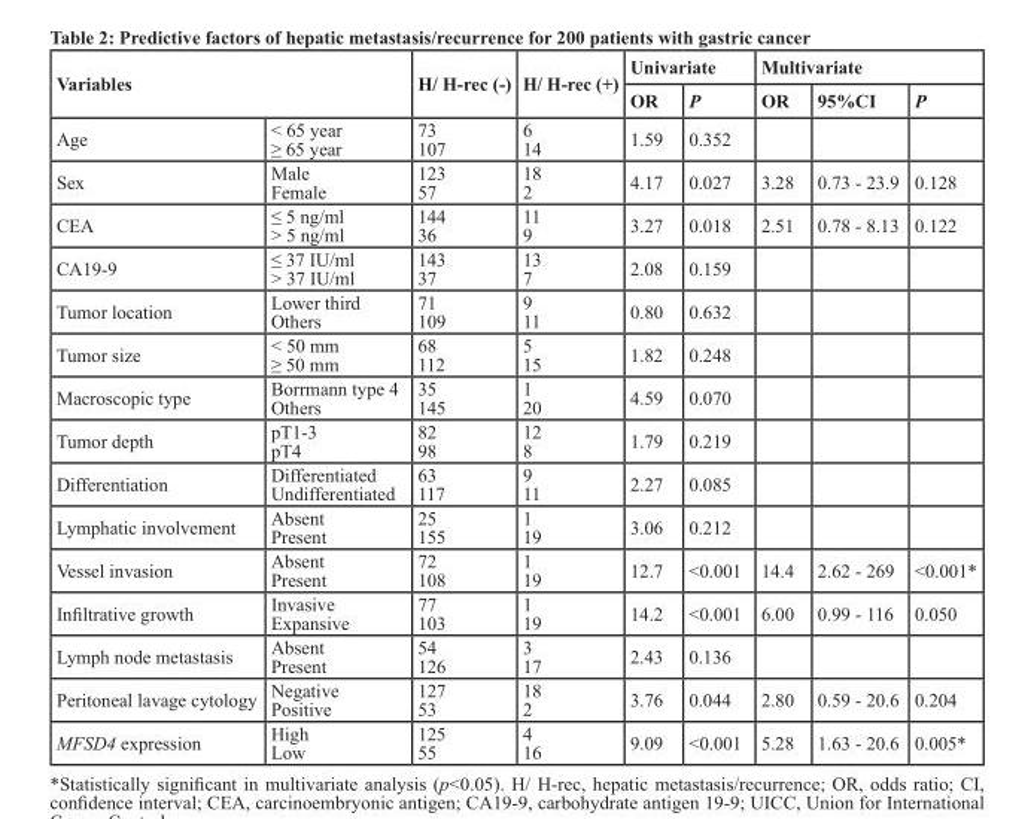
<table><thead><tr><td rowspan="2" colspan="2">Variables</td><td rowspan="3">H/ H-rec (-) 73 107</td><td rowspan="3">H/ H-rec (+) 6 14</td><td colspan="2">Univariate</td><td colspan="3">Multivariate</td></tr><tr><td rowspan="2">OR 1.59</td><td rowspan="2">P 0.352</td><td rowspan="2">OR</td><td rowspan="2">95%CI</td><td rowspan="2">P</td></tr><tr><td>Age</td><td>&lt; 65 year ≥ 65 year</td></tr></thead><tbody><tr><td>Sex</td><td>Male Female</td><td>123 57</td><td>18 2</td><td>4.17</td><td>0.027</td><td>3.28</td><td>0.73 - 23.9</td><td>0.128</td></tr><tr><td>CEA</td><td>≤ 5 ng/ml &gt; 5 ng/ml</td><td>144 36</td><td>11 9</td><td>3.27</td><td>0.018</td><td>2.51</td><td>0.78 - 8.13</td><td>0.122</td></tr><tr><td>CA19-9</td><td>≤ 37 IU/ml &gt; 37 IU/ml</td><td>143 37</td><td>13 7</td><td>2.08</td><td>0.159</td><td></td><td></td><td></td></tr><tr><td>Tumor location</td><td>Lower third Others</td><td>71 109</td><td>9 11</td><td>0.80</td><td>0.632</td><td></td><td></td><td></td></tr><tr><td>Tumor size</td><td>&lt; 50 mm ≥ 50 mm</td><td>68 112</td><td>5 15</td><td>1.82</td><td>0.248</td><td></td><td></td><td></td></tr><tr><td>Macroscopic type</td><td>Borrmann type 4 Others</td><td>35 145</td><td>1 20</td><td>4.59</td><td>0.070</td><td></td><td></td><td></td></tr><tr><td>Tumor depth</td><td>pT1-3 pT4</td><td>82 98</td><td>12 8</td><td>1.79</td><td>0.219</td><td></td><td></td><td></td></tr><tr><td>Differentiation</td><td>Differentiated Undifferentiated</td><td>63 117</td><td>9 11</td><td>2.27</td><td>0.085</td><td></td><td></td><td></td></tr><tr><td>Lymphatic involvement</td><td>Absent Present</td><td>25 155</td><td>1 19</td><td>3.06</td><td>0.212</td><td></td><td></td><td></td></tr><tr><td>Vessel invasion</td><td>Absent Present</td><td>72 108</td><td>1 19</td><td>12.7</td><td>&lt;0.001</td><td>14.4</td><td>2.62 - 269</td><td>&lt;0.001*</td></tr><tr><td>Infiltrative growth</td><td>Invasive Expansive</td><td>77 103</td><td>1 19</td><td>14.2</td><td>&lt;0.001</td><td>6.00</td><td>0.99 - 116</td><td>0.050</td></tr><tr><td>Lymph node metastasis</td><td>Absent Present</td><td>54 126</td><td>3 17</td><td>2.43</td><td>0.136</td><td></td><td></td><td></td></tr><tr><td>Peritoneal lavage cytology</td><td>Negative Positive</td><td>127 53</td><td>18 2</td><td>3.76</td><td>0.044</td><td>2.80</td><td>0.59 - 20.6</td><td>0.204</td></tr><tr><td>MFSD4 expression</td><td>High Low</td><td>125 55</td><td>4 16</td><td>9.09</td><td>&lt;0.001</td><td>5.28</td><td>1.63 - 20.6</td><td>0.005*</td></tr></tbody></table>